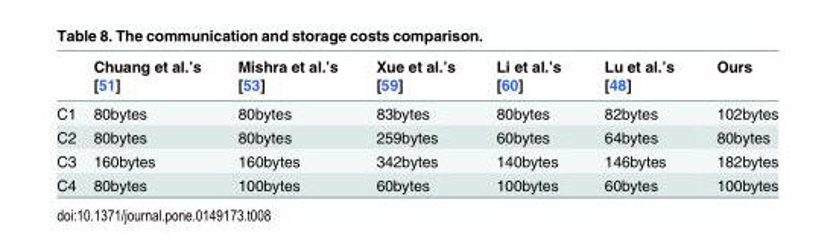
<table><thead><tr><td></td><td>Chuang et al.’s [51]</td><td>Mishra et al.’s [53]</td><td>Xue et al.’s [59]</td><td>Li et al.’s [60]</td><td>Lu et al.’s [48]</td><td>Ours</td></tr></thead><tbody><tr><td>C1</td><td>80bytes</td><td>80bytes</td><td>83bytes</td><td>80bytes</td><td>82bytes</td><td>102bytes</td></tr><tr><td>C2</td><td>80bytes</td><td>80bytes</td><td>259bytes</td><td>60bytes</td><td>64bytes</td><td>80bytes</td></tr><tr><td>C3</td><td>160bytes</td><td>160bytes</td><td>342bytes</td><td>140bytes</td><td>146bytes</td><td>182bytes</td></tr><tr><td>C4</td><td>80bytes</td><td>100bytes</td><td>60bytes</td><td>100bytes</td><td>60bytes</td><td>100bytes</td></tr></tbody></table>